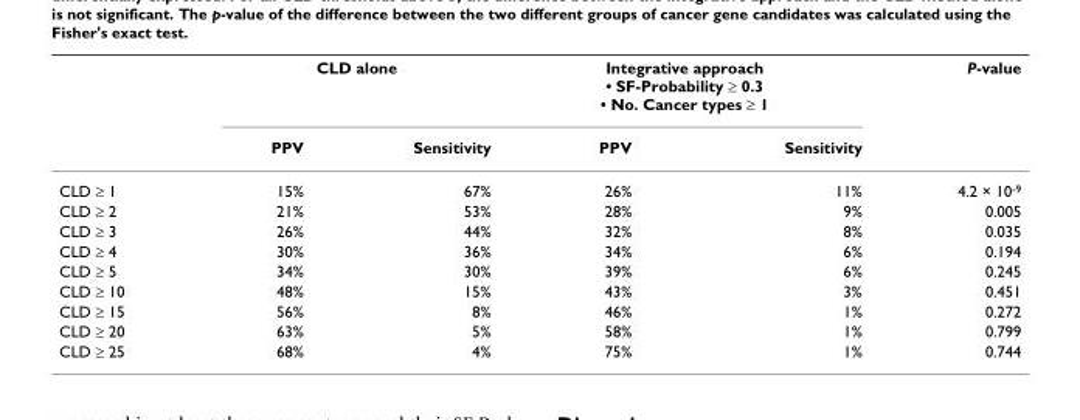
<table><thead><tr><td rowspan="2"></td><td colspan="2">CLD alone</td><td colspan="2">Integrative approach • SF-Probability ≥ 0.3 • No. Cancer types ≥ 1</td><td rowspan="2">P-value</td></tr><tr><td>PPV</td><td>Sensitivity</td><td>PPV</td><td>Sensitivity</td></tr></thead><tbody><tr><td>CLD ≥ 1</td><td>15%</td><td>67%</td><td>26%</td><td>11%</td><td>4.2 × 10<sup>-9</sup></td></tr><tr><td>CLD ≥ 2</td><td>21%</td><td>53%</td><td>28%</td><td>9%</td><td>0.005</td></tr><tr><td>CLD ≥ 3</td><td>26%</td><td>44%</td><td>32%</td><td>8%</td><td>0.035</td></tr><tr><td>CLD ≥ 4</td><td>30%</td><td>36%</td><td>34%</td><td>6%</td><td>0.194</td></tr><tr><td>CLD ≥ 5</td><td>34%</td><td>30%</td><td>39%</td><td>6%</td><td>0.245</td></tr><tr><td>CLD ≥ 10</td><td>48%</td><td>15%</td><td>43%</td><td>3%</td><td>0.451</td></tr><tr><td>CLD ≥ 15</td><td>56%</td><td>8%</td><td>46%</td><td>1%</td><td>0.272</td></tr><tr><td>CLD ≥ 20</td><td>63%</td><td>5%</td><td>58%</td><td>1%</td><td>0.799</td></tr><tr><td>CLD ≥ 25</td><td>68%</td><td>4%</td><td>75%</td><td>1%</td><td>0.744</td></tr></tbody></table>